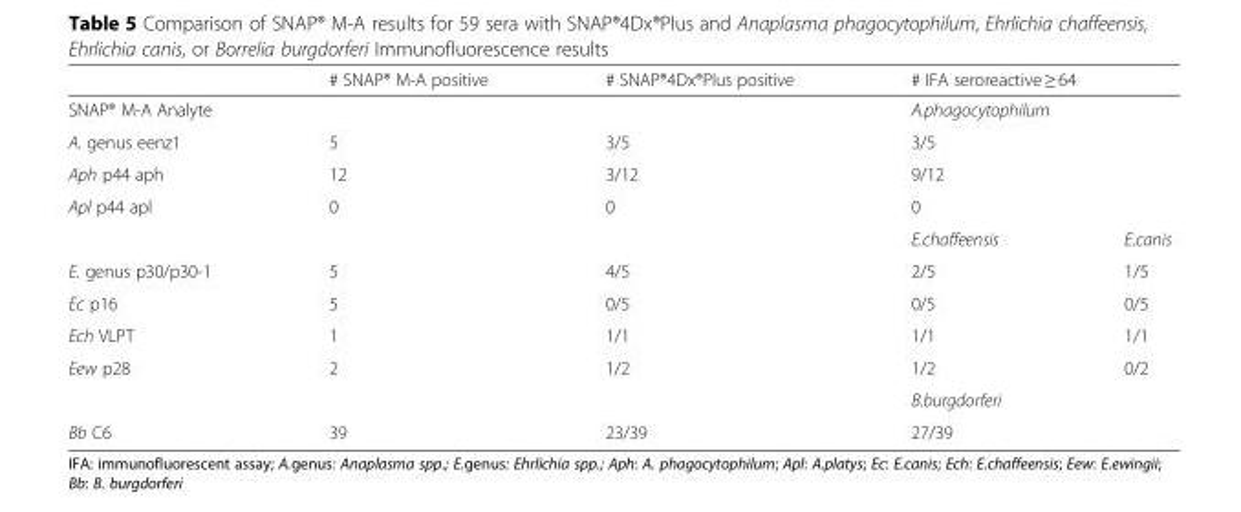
<table><thead><tr><td></td><td># SNAP® M-A positive</td><td># SNAP®4Dx®Plus positive</td><td colspan="2"># IFA seroreactive ≥ 64</td></tr></thead><tbody><tr><td>SNAP® M-A Analyte</td><td></td><td></td><td colspan="2">A.phagocytophilum</td></tr><tr><td>A. genus eenz1</td><td>5</td><td>3/5</td><td colspan="2">3/5</td></tr><tr><td>Aph p44 aph</td><td>12</td><td>3/12</td><td colspan="2">9/12</td></tr><tr><td rowspan="2">Apl p44 apl</td><td>0</td><td>0</td><td colspan="2">0</td></tr><tr><td></td><td></td><td>E.chaffeensis</td><td>E.canis</td></tr><tr><td>E. genus p30/p30-1</td><td>5</td><td>4/5</td><td>2/5</td><td>1/5</td></tr><tr><td>Ec p16</td><td>5</td><td>0/5</td><td>0/5</td><td>0/5</td></tr><tr><td>Ech VLPT</td><td>1</td><td>1/1</td><td>1/1</td><td>1/1</td></tr><tr><td rowspan="2">Eew p28</td><td>2</td><td>1/2</td><td>1/2</td><td>0/2</td></tr><tr><td></td><td></td><td colspan="2">B.burgdorferi</td></tr><tr><td>Bb C6</td><td>39</td><td>23/39</td><td>27/39</td><td></td></tr></tbody></table>